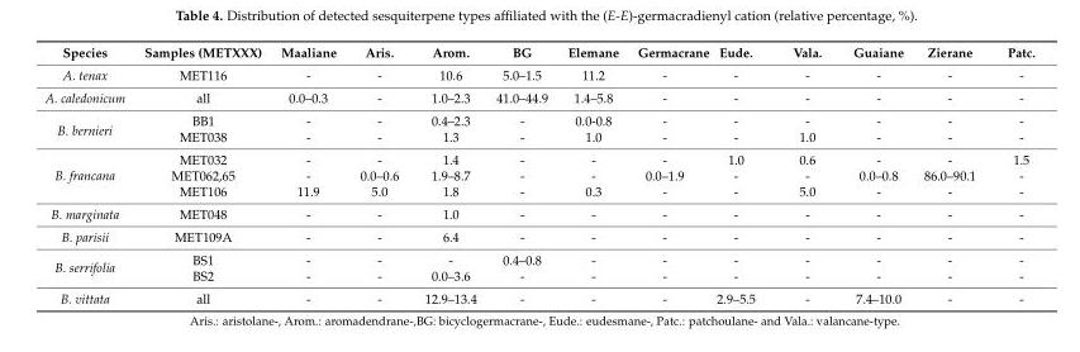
<table><thead><tr><td>Species</td><td>Samples (METXXX)</td><td>Maaliane</td><td>Aris.</td><td>Arom.</td><td>BG</td><td>Elemane</td><td>Germacrane</td><td>Eude.</td><td>Vala.</td><td>Guaiane</td><td>Zierane</td><td>Patc.</td></tr></thead><tbody><tr><td>A. tenax</td><td>MET116</td><td>-</td><td>-</td><td>10.6</td><td>5.0–1.5</td><td>11.2</td><td>-</td><td>-</td><td>-</td><td>-</td><td>-</td><td>-</td></tr><tr><td>A. caledonicum</td><td>all</td><td>0.0–0.3</td><td>-</td><td>1.0–2.3</td><td>41.0–44.9</td><td>1.4–5.8</td><td>-</td><td>-</td><td>-</td><td>-</td><td>-</td><td>-</td></tr><tr><td rowspan="2">B. bernieri</td><td>BB1</td><td>-</td><td>-</td><td>0.4–2.3</td><td>-</td><td>0.0-0.8</td><td>-</td><td>-</td><td>-</td><td>-</td><td>-</td><td>-</td></tr><tr><td>MET038</td><td>-</td><td>-</td><td>1.3</td><td>-</td><td>1.0</td><td>-</td><td>-</td><td>1.0</td><td>-</td><td>-</td><td>-</td></tr><tr><td rowspan="3">B. francana</td><td>MET032</td><td>-</td><td>-</td><td>1.4</td><td>-</td><td>-</td><td>-</td><td>1.0</td><td>0.6</td><td>-</td><td>-</td><td>1.5</td></tr><tr><td>MET062,65</td><td>-</td><td>0.0–0.6</td><td>1.9–8.7</td><td>-</td><td>-</td><td>0.0–1.9</td><td>-</td><td>-</td><td>0.0–0.8</td><td>86.0–90.1</td><td>-</td></tr><tr><td>MET106</td><td>11.9</td><td>5.0</td><td>1.8</td><td>-</td><td>0.3</td><td>-</td><td>-</td><td>5.0</td><td>-</td><td>-</td><td>-</td></tr><tr><td>B. marginata</td><td>MET048</td><td>-</td><td>-</td><td>1.0</td><td>-</td><td>-</td><td>-</td><td>-</td><td>-</td><td>-</td><td>-</td><td>-</td></tr><tr><td>B. parisii</td><td>MET109A</td><td>-</td><td>-</td><td>6.4</td><td>-</td><td>-</td><td>-</td><td>-</td><td>-</td><td>-</td><td>-</td><td>-</td></tr><tr><td rowspan="2">B. serrifolia</td><td>BS1</td><td>-</td><td>-</td><td>-</td><td>0.4–0.8</td><td>-</td><td>-</td><td>-</td><td>-</td><td>-</td><td>-</td><td>-</td></tr><tr><td>BS2</td><td>-</td><td>-</td><td>0.0–3.6</td><td>-</td><td>-</td><td>-</td><td>-</td><td>-</td><td>-</td><td>-</td><td>-</td></tr><tr><td>B. vittata</td><td>all</td><td>-</td><td>-</td><td>12.9–13.4</td><td>-</td><td>-</td><td>-</td><td>2.9–5.5</td><td>-</td><td>7.4–10.0</td><td>-</td><td>-</td></tr></tbody></table>